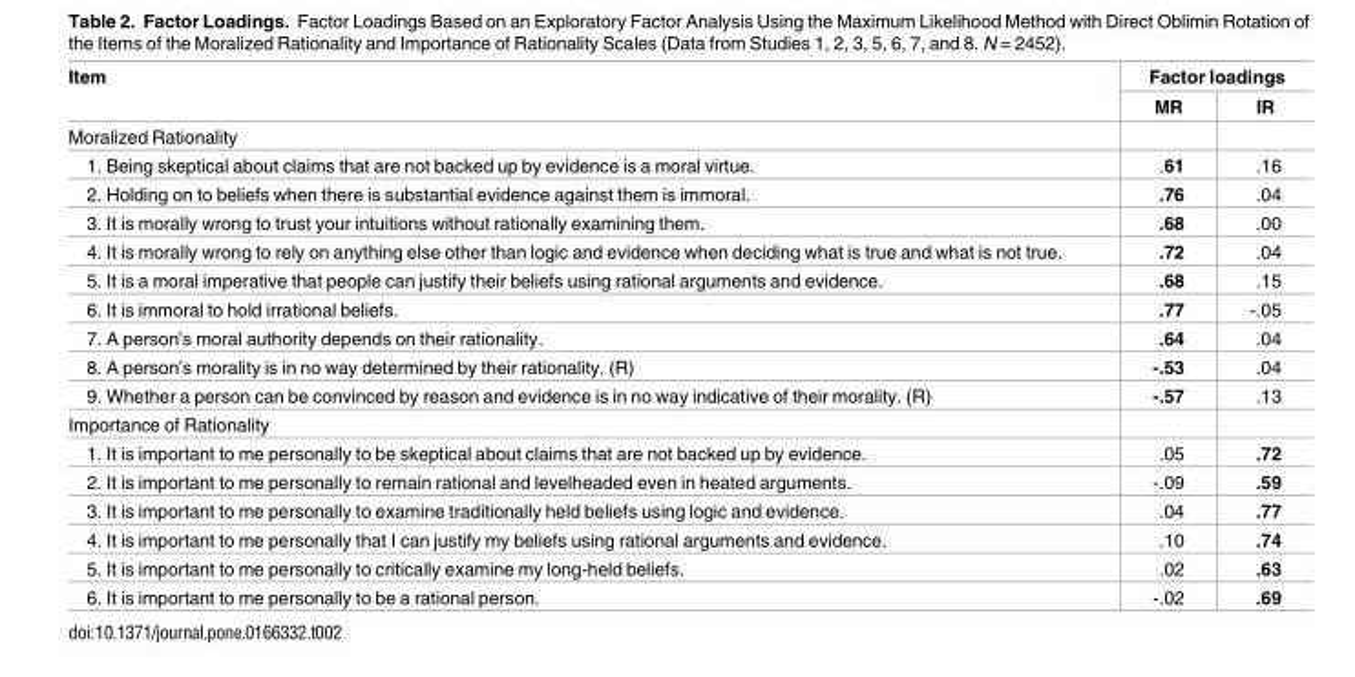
<table><thead><tr><td rowspan="2">Item</td><td colspan="2">Factor loadings</td></tr><tr><td>MR</td><td>IR</td></tr></thead><tbody><tr><td colspan="3">Moralized Rationality</td></tr><tr><td>1. Being skeptical about claims that are not backed up by evidence is a moral virtue.</td><td>.61</td><td>.16</td></tr><tr><td>2. Holding on to beliefs when there is substantial evidence against them is immoral.</td><td>.76</td><td>.04</td></tr><tr><td>3. It is morally wrong to trust your intuitions without rationally examining them.</td><td>.68</td><td>.00</td></tr><tr><td>4. It is morally wrong to rely on anything else other than logic and evidence when deciding what is true and what is not true.</td><td>.72</td><td>.04</td></tr><tr><td>5. It is a moral imperative that people can justify their beliefs using rational arguments and evidence.</td><td>.68</td><td>.15</td></tr><tr><td>6. It is immoral to hold irrational beliefs.</td><td>.77</td><td>-.05</td></tr><tr><td>7. A person’s moral authority depends on their rationality.</td><td>.64</td><td>.04</td></tr><tr><td>8. A person’s morality is in no way determined by their rationality. (R)</td><td>-.53</td><td>.04</td></tr><tr><td>9. Whether a person can be convinced by reason and evidence is in no way indicative of their morality. (R)</td><td>-.57</td><td>.13</td></tr><tr><td colspan="3">Importance of Rationality</td></tr><tr><td>1. It is important to me personally to be skeptical about claims that are not backed up by evidence.</td><td>.05</td><td>.72</td></tr><tr><td>2. It is important to me personally to remain rational and levelheaded even in heated arguments.</td><td>-.09</td><td>.59</td></tr><tr><td>3. It is important to me personally to examine traditionally held beliefs using logic and evidence.</td><td>.04</td><td>.77</td></tr><tr><td>4. It is important to me personally that I can justify my beliefs using rational arguments and evidence.</td><td>.10</td><td>.74</td></tr><tr><td>5. It is important to me personally to critically examine my long-held beliefs.</td><td>.02</td><td>.63</td></tr><tr><td>6. It is important to me personally to be a rational person.</td><td>-.02</td><td>.69</td></tr></tbody></table>